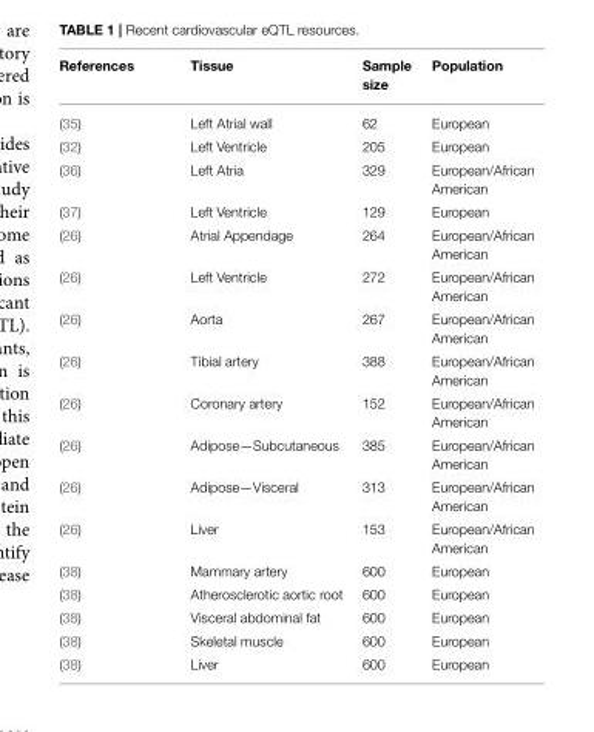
<table><thead><tr><td>References</td><td>Tissue</td><td>Sample size</td><td>Population</td></tr></thead><tbody><tr><td>(35)</td><td>Left Atrial wall</td><td>62</td><td>European</td></tr><tr><td>(32)</td><td>Left Ventricle</td><td>205</td><td>European</td></tr><tr><td>(36)</td><td>Left Atria</td><td>329</td><td>European/African American</td></tr><tr><td>(37)</td><td>Left Ventricle</td><td>129</td><td>European</td></tr><tr><td>(26)</td><td>Atrial Appendage</td><td>264</td><td>European/African American</td></tr><tr><td>(26)</td><td>Left Ventricle</td><td>272</td><td>European/African American</td></tr><tr><td>(26)</td><td>Aorta</td><td>267</td><td>European/African American</td></tr><tr><td>(26)</td><td>Tibial artery</td><td>388</td><td>European/African American</td></tr><tr><td>(26)</td><td>Coronary artery</td><td>152</td><td>European/African American</td></tr><tr><td>(26)</td><td>Adipose—Subcutaneous</td><td>385</td><td>European/African American</td></tr><tr><td>(26)</td><td>Adipose—Visceral</td><td>313</td><td>European/African American</td></tr><tr><td>(26)</td><td>Liver</td><td>153</td><td>European/African American</td></tr><tr><td>(38)</td><td>Mammary artery</td><td>600</td><td>European</td></tr><tr><td>(38)</td><td>Atherosclerotic aortic root</td><td>600</td><td>European</td></tr><tr><td>(38)</td><td>Visceral abdominal fat</td><td>600</td><td>European</td></tr><tr><td>(38)</td><td>Skeletal muscle</td><td>600</td><td>European</td></tr><tr><td>(38)</td><td>Liver</td><td>600</td><td>European</td></tr></tbody></table>